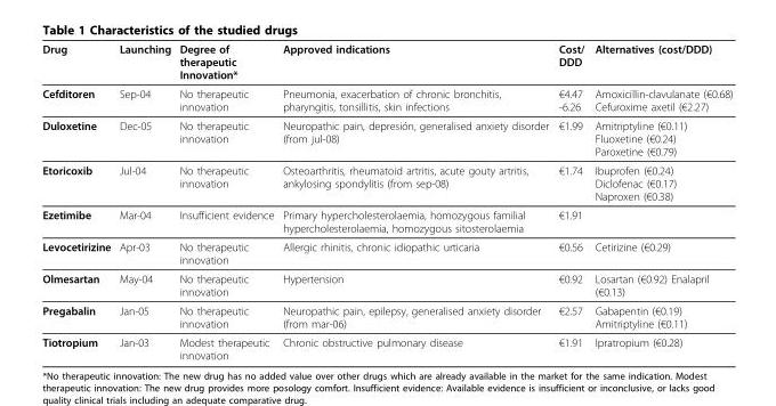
<table><thead><tr><td>Drug</td><td>Launching</td><td>Degree of therapeutic Innovation*</td><td>Approved indications</td><td>Cost/ DDD</td><td>Alternatives (cost/DDD)</td></tr></thead><tbody><tr><td>Cefditoren</td><td>Sep-04</td><td>No therapeutic innovation</td><td>Pneumonia, exacerbation of chronic bronchitis, pharyngitis, tonsillitis, skin infections</td><td>€4.47 -6.26</td><td>Amoxicillin-clavulanate (€0.68) Cefuroxime axetil (€2.27)</td></tr><tr><td>Duloxetine</td><td>Dec-05</td><td>No therapeutic innovation</td><td>Neuropathic pain, depresión, generalised anxiety disorder (from jul-08)</td><td>€1.99</td><td>Amitriptyline (€0.11) Fluoxetine (€0.24) Paroxetine (€0.79)</td></tr><tr><td>Etoricoxib</td><td>Jul-04</td><td>No therapeutic innovation</td><td>Osteoarthritis, rheumatoid artritis, acute gouty artritis, ankylosing spondylitis (from sep-08)</td><td>€1.74</td><td>Ibuprofen (€0.24) Diclofenac (€0.17) Naproxen (€0.38)</td></tr><tr><td>Ezetimibe</td><td>Mar-04</td><td>Insufficient evidence</td><td>Primary hypercholesterolaemia, homozygous familial hypercholesterolaemia, homozygous sitosterolaemia</td><td>€1.91</td><td></td></tr><tr><td>Levocetirizine</td><td>Apr-03</td><td>No therapeutic innovation</td><td>Allergic rhinitis, chronic idiopathic urticaria</td><td>€0.56</td><td>Cetirizine (€0.29)</td></tr><tr><td>Olmesartan</td><td>May-04</td><td>No therapeutic innovation</td><td>Hypertension</td><td>€0.92</td><td>Losartan (€0.92) Enalapril (€0.13)</td></tr><tr><td>Pregabalin</td><td>Jan-05</td><td>No therapeutic innovation</td><td>Neuropathic pain, epilepsy, generalised anxiety disorder (from mar-06)</td><td>€2.57</td><td>Gabapentin (€0.19) Amitriptyline (€0.11)</td></tr><tr><td>Tiotropium</td><td>Jan-03</td><td>Modest therapeutic innovation</td><td>Chronic obstructive pulmonary disease</td><td>€1.91</td><td>Ipratropium (€0.28)</td></tr></tbody></table>